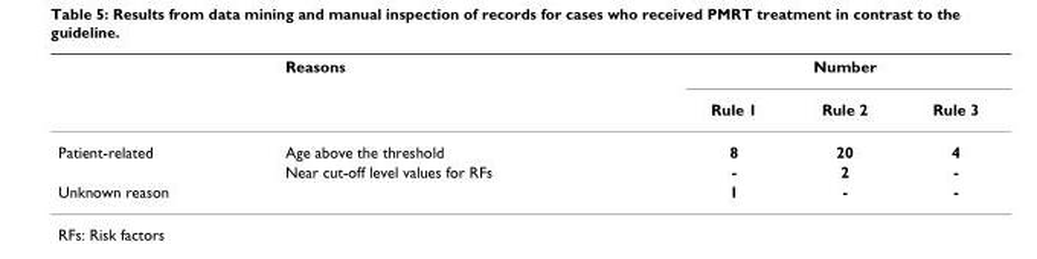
<table><thead><tr><td rowspan="2"></td><td rowspan="2">Reasons</td><td colspan="3">Number</td></tr><tr><td>Rule 1</td><td>Rule 2</td><td>Rule 3</td></tr></thead><tbody><tr><td rowspan="2">Patient-related</td><td>Age above the threshold</td><td>8</td><td>20</td><td>4</td></tr><tr><td>Near cut-off level values for RFs</td><td>-</td><td>2</td><td>-</td></tr><tr><td>Unknown reason</td><td></td><td>1</td><td>-</td><td>-</td></tr></tbody></table>